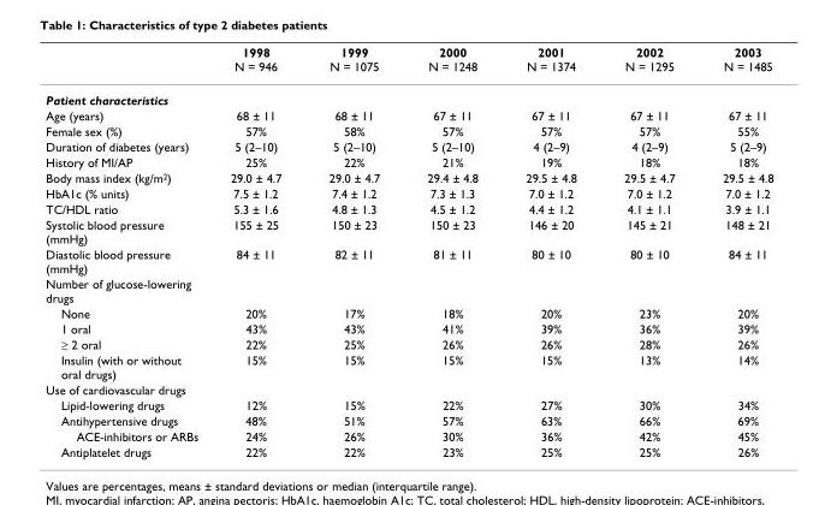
<table><thead><tr><td></td><td>1998 N = 946</td><td>1999 N = 1075</td><td>2000 N = 1248</td><td>2001 N = 1374</td><td>2002 N = 1295</td><td>2003 N = 1485</td></tr></thead><tbody><tr><td colspan="7">Patient characteristics</td></tr><tr><td>Age (years)</td><td>68 ± 11</td><td>68 ± 11</td><td>67 ± 11</td><td>67 ± 11</td><td>67 ± 11</td><td>67 ± 11</td></tr><tr><td>Female sex (%)</td><td>57%</td><td>58%</td><td>57%</td><td>57%</td><td>57%</td><td>55%</td></tr><tr><td>Duration of diabetes (years)</td><td>5 (2–10)</td><td>5 (2–10)</td><td>5 (2–10)</td><td>4 (2–9)</td><td>4 (2–9)</td><td>5 (2–9)</td></tr><tr><td>History of MI/AP</td><td>25%</td><td>22%</td><td>21%</td><td>19%</td><td>18%</td><td>18%</td></tr><tr><td>Body mass index (kg/m<sup>2</sup>)</td><td>29.0 ± 4.7</td><td>29.0 ± 4.7</td><td>29.4 ± 4.8</td><td>29.5 ± 4.8</td><td>29.5 ± 4.7</td><td>29.5 ± 4.8</td></tr><tr><td>HbA1c (% units)</td><td>7.5 ± 1.2</td><td>7.4 ± 1.2</td><td>7.3 ± 1.3</td><td>7.0 ± 1.2</td><td>7.0 ± 1.2</td><td>7.0 ± 1.2</td></tr><tr><td>TC/HDL ratio</td><td>5.3 ± 1.6</td><td>4.8 ± 1.3</td><td>4.5 ± 1.2</td><td>4.4 ± 1.2</td><td>4.1 ± 1.1</td><td>3.9 ± 1.1</td></tr><tr><td>Systolic blood pressure (mmHg)</td><td>155 ± 25</td><td>150 ± 23</td><td>150 ± 23</td><td>146 ± 20</td><td>145 ± 21</td><td>148 ± 21</td></tr><tr><td>Diastolic blood pressure (mmHg)</td><td>84 ± 11</td><td>82 ± 11</td><td>81 ± 11</td><td>80 ± 10</td><td>80 ± 10</td><td>84 ± 11</td></tr><tr><td colspan="7">Number of glucose-lowering drugs</td></tr><tr><td>None</td><td>20%</td><td>17%</td><td>18%</td><td>20%</td><td>23%</td><td>20%</td></tr><tr><td>1 oral</td><td>43%</td><td>43%</td><td>41%</td><td>39%</td><td>36%</td><td>39%</td></tr><tr><td>≥ 2 oral</td><td>22%</td><td>25%</td><td>26%</td><td>26%</td><td>28%</td><td>26%</td></tr><tr><td>Insulin (with or without oral drugs)</td><td>15%</td><td>15%</td><td>15%</td><td>15%</td><td>13%</td><td>14%</td></tr><tr><td colspan="7">Use of cardiovascular drugs</td></tr><tr><td>Lipid-lowering drugs</td><td>12%</td><td>15%</td><td>22%</td><td>27%</td><td>30%</td><td>34%</td></tr><tr><td>Antihypertensive drugs</td><td>48%</td><td>51%</td><td>57%</td><td>63%</td><td>66%</td><td>69%</td></tr><tr><td>ACE-inhibitors or ARBs</td><td>24%</td><td>26%</td><td>30%</td><td>36%</td><td>42%</td><td>45%</td></tr><tr><td>Antiplatelet drugs</td><td>22%</td><td>22%</td><td>23%</td><td>25%</td><td>25%</td><td>26%</td></tr></tbody></table>